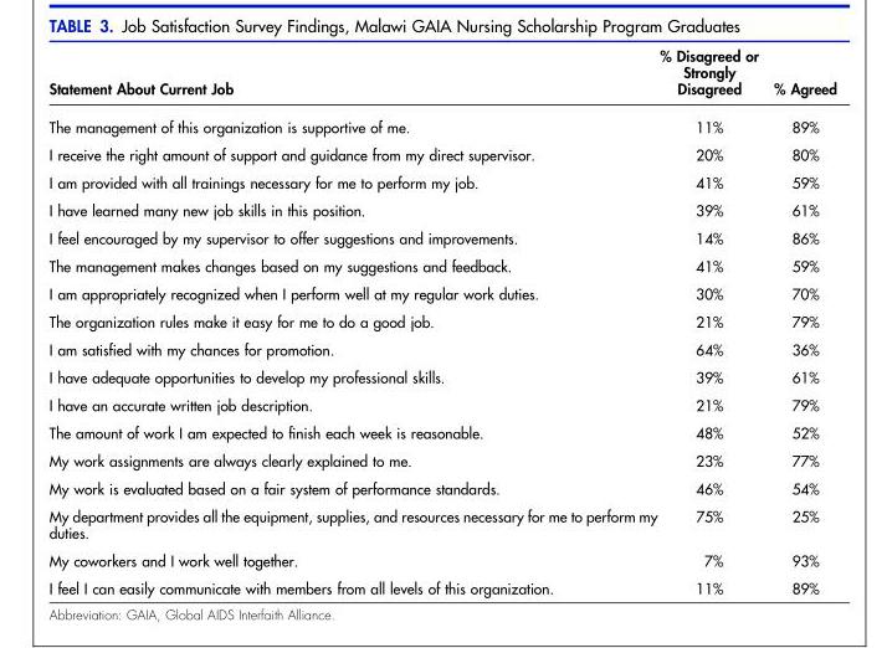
<table><thead><tr><td>Statement About Current Job</td><td>% Disagreed or Strongly Disagreed</td><td>% Agreed</td></tr></thead><tbody><tr><td>The management of this organization is supportive of me.</td><td>11%</td><td>89%</td></tr><tr><td>I receive the right amount of support and guidance from my direct supervisor.</td><td>20%</td><td>80%</td></tr><tr><td>I am provided with all trainings necessary for me to perform my job.</td><td>41%</td><td>59%</td></tr><tr><td>I have learned many new job skills in this position.</td><td>39%</td><td>61%</td></tr><tr><td>I feel encouraged by my supervisor to offer suggestions and improvements.</td><td>14%</td><td>86%</td></tr><tr><td>The management makes changes based on my suggestions and feedback.</td><td>41%</td><td>59%</td></tr><tr><td>I am appropriately recognized when I perform well at my regular work duties.</td><td>30%</td><td>70%</td></tr><tr><td>The organization rules make it easy for me to do a good job.</td><td>21%</td><td>79%</td></tr><tr><td>I am satisfied with my chances for promotion.</td><td>64%</td><td>36%</td></tr><tr><td>I have adequate opportunities to develop my professional skills.</td><td>39%</td><td>61%</td></tr><tr><td>I have an accurate written job description.</td><td>21%</td><td>79%</td></tr><tr><td>The amount of work I am expected to finish each week is reasonable.</td><td>48%</td><td>52%</td></tr><tr><td>My work assignments are always clearly explained to me.</td><td>23%</td><td>77%</td></tr><tr><td>My work is evaluated based on a fair system of performance standards.</td><td>46%</td><td>54%</td></tr><tr><td>My department provides all the equipment, supplies, and resources necessary for me to perform my duties.</td><td>75%</td><td>25%</td></tr><tr><td>My coworkers and I work well together.</td><td>7%</td><td>93%</td></tr><tr><td>I feel I can easily communicate with members from all levels of this organization.</td><td>11%</td><td>89%</td></tr></tbody></table>